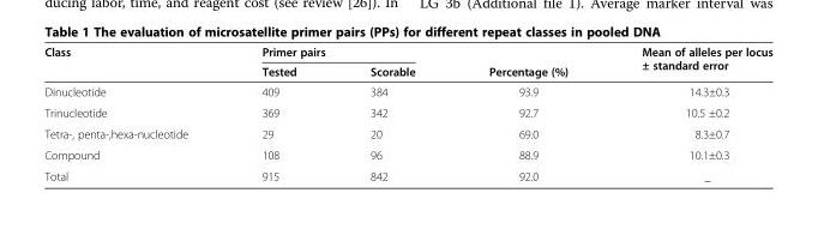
<table><thead><tr><td rowspan="2">Class</td><td colspan="2">Primer pairs</td><td rowspan="2">Percentage (%)</td><td rowspan="2">Mean of alleles per locus ± standard error</td></tr><tr><td>Tested</td><td>Scorable</td></tr></thead><tbody><tr><td>Dinucleotide</td><td>409</td><td>384</td><td>93.9</td><td>14.3±0.3</td></tr><tr><td>Trinucleotide</td><td>369</td><td>342</td><td>92.7</td><td>10.5 ±0.2</td></tr><tr><td>Tetra-, penta-,hexa-nucleotide</td><td>29</td><td>20</td><td>69.0</td><td>8.3±0.7</td></tr><tr><td>Compound</td><td>108</td><td>96</td><td>88.9</td><td>10.1±0.3</td></tr><tr><td>Total</td><td>915</td><td>842</td><td>92.0</td><td>_</td></tr></tbody></table>